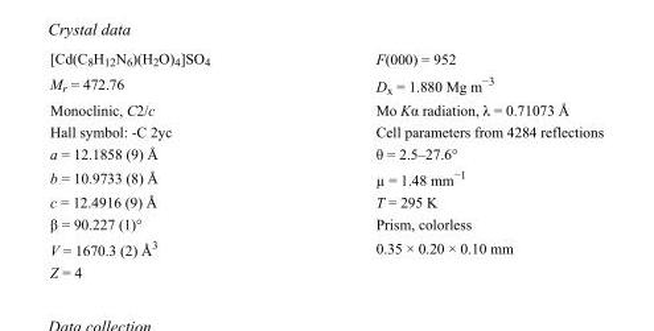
<table><tbody><tr><td>[Cd(C<sub>8</sub>H<sub>12</sub>N<sub>6</sub>)(H<sub>2</sub>O)<sub>4</sub>]SO<sub>4</sub></td><td>F(000) = 952</td></tr><tr><td>M<sub>r</sub> = 472.76</td><td>D<sub>x</sub> = 1.880 Mg m<sup>−3</sup></td></tr><tr><td>Monoclinic, C2/c</td><td>Mo Kα radiation, λ = 0.71073 Å</td></tr><tr><td>Hall symbol: -C 2yc</td><td>Cell parameters from 4284 reflections</td></tr><tr><td>a = 12.1858 (9) Å</td><td>θ = 2.5–27.6°</td></tr><tr><td>b = 10.9733 (8) Å</td><td>µ = 1.48 mm<sup>−1</sup></td></tr><tr><td>c = 12.4916 (9) Å</td><td>T = 295 K</td></tr><tr><td>β = 90.227 (1)°</td><td>Prism, colorless</td></tr><tr><td>V = 1670.3 (2) Å<sup>3</sup></td><td>0.35 × 0.20 × 0.10 mm</td></tr><tr><td>Z = 4</td><td></td></tr></tbody></table>